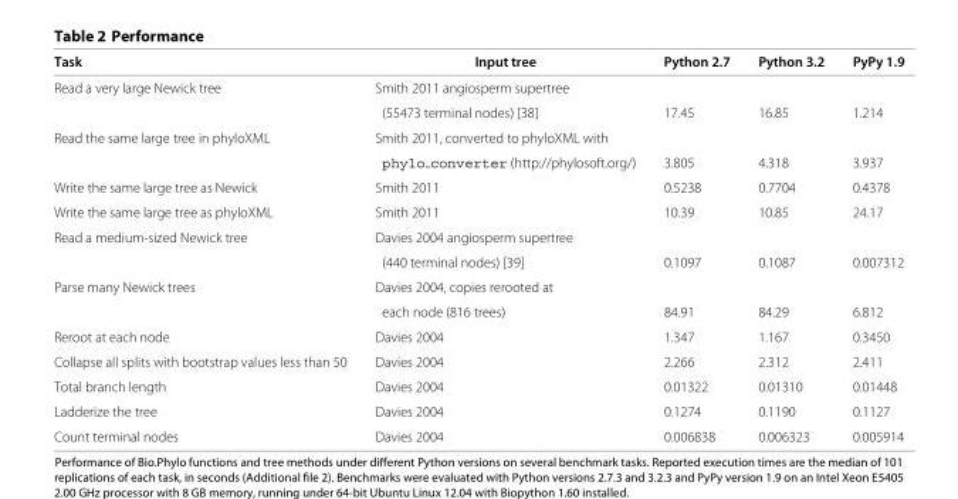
<table><thead><tr><td>Task</td><td>Input tree</td><td>Python 2.7</td><td>Python 3.2</td><td>PyPy 1.9</td></tr></thead><tbody><tr><td rowspan="2">Read a very large Newick tree</td><td>Smith 2011 angiosperm supertree</td><td></td><td></td><td></td></tr><tr><td>(55473 terminal nodes) [38]</td><td>17.45</td><td>16.85</td><td>1.214</td></tr><tr><td rowspan="2">Read the same large tree in phyloXML</td><td>Smith 2011, converted to phyloXML with</td><td></td><td></td><td></td></tr><tr><td>phylo converter (http://phylosoft.org/)</td><td>3.805</td><td>4.318</td><td>3.937</td></tr><tr><td>Write the same large tree as Newick</td><td>Smith 2011</td><td>0.5238</td><td>0.7704</td><td>0.4378</td></tr><tr><td>Write the same large tree as phyloXML</td><td>Smith 2011</td><td>10.39</td><td>10.85</td><td>24.17</td></tr><tr><td rowspan="2">Read a medium-sized Newick tree</td><td>Davies 2004 angiosperm supertree</td><td></td><td></td><td></td></tr><tr><td>(440 terminal nodes) [39]</td><td>0.1097</td><td>0.1087</td><td>0.007312</td></tr><tr><td rowspan="2">Parse many Newick trees</td><td>Davies 2004, copies rerooted at</td><td></td><td></td><td></td></tr><tr><td>each node (816 trees)</td><td>84.91</td><td>84.29</td><td>6.812</td></tr><tr><td>Reroot at each node</td><td>Davies 2004</td><td>1.347</td><td>1.167</td><td>0.3450</td></tr><tr><td>Collapse all splits with bootstrap values less than 50</td><td>Davies 2004</td><td>2.266</td><td>2.312</td><td>2.411</td></tr><tr><td>Total branch length</td><td>Davies 2004</td><td>0.01322</td><td>0.01310</td><td>0.01448</td></tr><tr><td>Ladderize the tree</td><td>Davies 2004</td><td>0.1274</td><td>0.1190</td><td>0.1127</td></tr><tr><td>Count terminal nodes</td><td>Davies 2004</td><td>0.006838</td><td>0.006323</td><td>0.005914</td></tr></tbody></table>